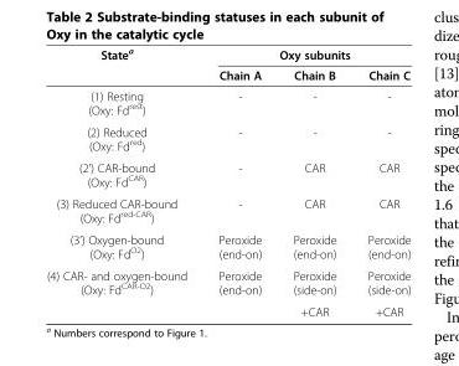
<table><thead><tr><td rowspan="2">State<sup>a</sup></td><td colspan="3">Oxy subunits</td></tr><tr><td>Chain A</td><td>Chain B</td><td>Chain C</td></tr></thead><tbody><tr><td>(1) Resting (Oxy: Fd<sup>rest</sup>)</td><td>-</td><td>-</td><td>-</td></tr><tr><td>(2) Reduced (Oxy: Fd<sup>red</sup>)</td><td>-</td><td>-</td><td>-</td></tr><tr><td>(2’) CAR-bound (Oxy: Fd<sup>CAR</sup>)</td><td>-</td><td>CAR</td><td>CAR</td></tr><tr><td>(3) Reduced CAR-bound (Oxy: Fd<sup>red-CAR</sup>)</td><td>-</td><td>CAR</td><td>CAR</td></tr><tr><td>(3’) Oxygen-bound (Oxy: Fd<sup>O2</sup>)</td><td>Peroxide (end-on)</td><td>Peroxide (end-on)</td><td>Peroxide (end-on)</td></tr><tr><td rowspan="2">(4) CAR- and oxygen-bound (Oxy: Fd<sup>CAR-O2</sup>)</td><td>Peroxide (end-on)</td><td>Peroxide (side-on)</td><td>Peroxide (side-on)</td></tr><tr><td></td><td>+CAR</td><td>+CAR</td></tr></tbody></table>